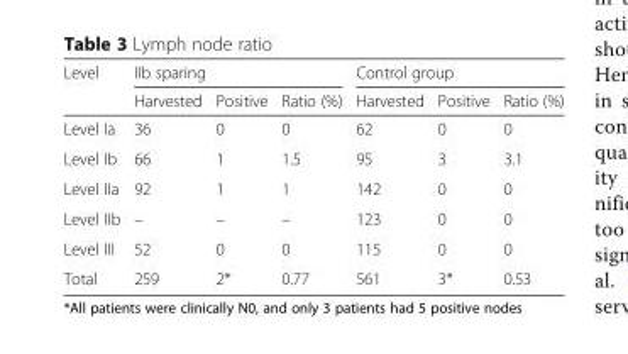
<table><thead><tr><td rowspan="2">Level</td><td colspan="3">IIb sparing</td><td colspan="3">Control group</td></tr><tr><td>Harvested</td><td>Positive</td><td>Ratio (%)</td><td>Harvested</td><td>Positive</td><td>Ratio (%)</td></tr></thead><tbody><tr><td>Level Ia</td><td>36</td><td>0</td><td>0</td><td>62</td><td>0</td><td>0</td></tr><tr><td>Level Ib</td><td>66</td><td>1</td><td>1.5</td><td>95</td><td>3</td><td>3.1</td></tr><tr><td>Level IIa</td><td>92</td><td>1</td><td>1</td><td>142</td><td>0</td><td>0</td></tr><tr><td>Level IIb</td><td>–</td><td>–</td><td>–</td><td>123</td><td>0</td><td>0</td></tr><tr><td>Level III</td><td>52</td><td>0</td><td>0</td><td>115</td><td>0</td><td>0</td></tr><tr><td>Total</td><td>259</td><td>2*</td><td>0.77</td><td>561</td><td>3*</td><td>0.53</td></tr></tbody></table>